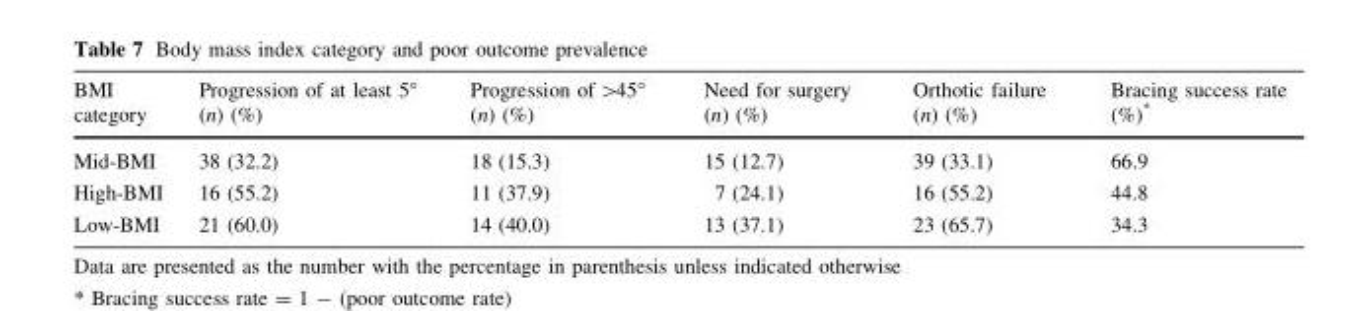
<table><thead><tr><td>BMI category</td><td>Progression of at least 5° (n) (%)</td><td>Progression of &gt;45° (n) (%)</td><td>Need for surgery (n) (%)</td><td>Orthotic failure (n) (%)</td><td>Bracing success rate (%)*</td></tr></thead><tbody><tr><td>Mid-BMI</td><td>38 (32.2)</td><td>18 (15.3)</td><td>15 (12.7)</td><td>39 (33.1)</td><td>66.9</td></tr><tr><td>High-BMI</td><td>16 (55.2)</td><td>11 (37.9)</td><td>7 (24.1)</td><td>16 (55.2)</td><td>44.8</td></tr><tr><td>Low-BMI</td><td>21 (60.0)</td><td>14 (40.0)</td><td>13 (37.1)</td><td>23 (65.7)</td><td>34.3</td></tr></tbody></table>